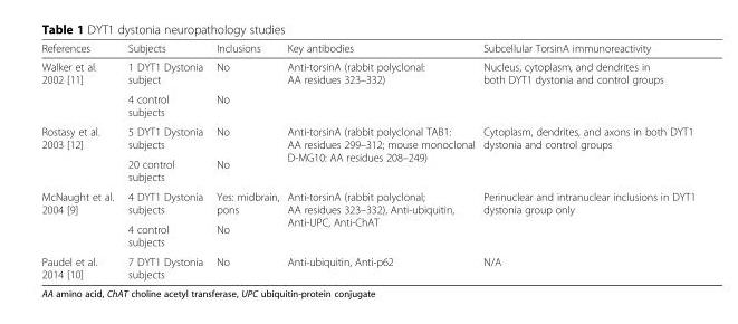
<table><thead><tr><td>References</td><td>Subjects</td><td>Inclusions</td><td>Key antibodies</td><td>Subcellular TorsinA immunoreactivity</td></tr></thead><tbody><tr><td rowspan="2">Walker et al. 2002 [11]</td><td>1 DYT1 Dystonia subject</td><td>No</td><td rowspan="2">Anti-torsinA (rabbit polyclonal: AA residues 323–332)</td><td rowspan="2">Nucleus, cytoplasm, and dendrites in both DYT1 dystonia and control groups</td></tr><tr><td>4 control subjects</td><td>No</td></tr><tr><td rowspan="2">Rostasy et al. 2003 [12]</td><td>5 DYT1 Dystonia subjects</td><td>No</td><td rowspan="2">Anti-torsinA (rabbit polyclonal TAB1: AA residues 299–312; mouse monoclonal D-MG10: AA residues 208–249)</td><td rowspan="2">Cytoplasm, dendrites, and axons in both DYT1 dystonia and control groups</td></tr><tr><td>20 control subjects</td><td>No</td></tr><tr><td rowspan="2">McNaught et al. 2004 [9]</td><td>4 DYT1 Dystonia subjects</td><td>Yes: midbrain, pons</td><td rowspan="2">Anti-torsinA (rabbit polyclonal; AA residues 323–332), Anti-ubiquitin, Anti-UPC, Anti-ChAT</td><td rowspan="2">Perinuclear and intranuclear inclusions in DYT1 dystonia group only</td></tr><tr><td>4 control subjects</td><td>No</td></tr><tr><td>Paudel et al. 2014 [10]</td><td>7 DYT1 Dystonia subjects</td><td>No</td><td>Anti-ubiquitin, Anti-p62</td><td>N/A</td></tr></tbody></table>